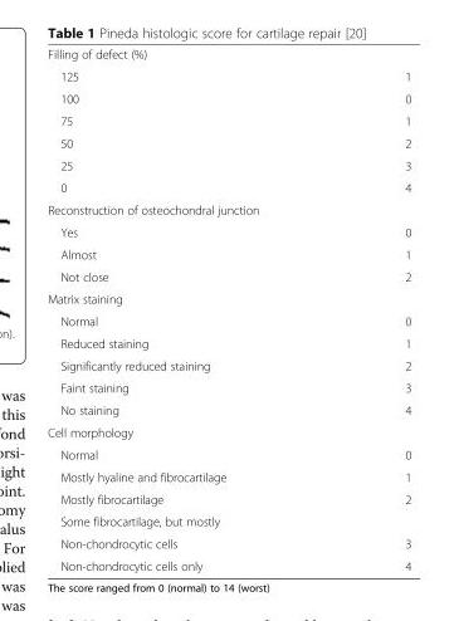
<table><tbody><tr><td colspan="2">Filling of defect (%)</td></tr><tr><td>125</td><td>1</td></tr><tr><td>100</td><td>0</td></tr><tr><td>75</td><td>1</td></tr><tr><td>50</td><td>2</td></tr><tr><td>25</td><td>3</td></tr><tr><td>0</td><td>4</td></tr><tr><td colspan="2">Reconstruction of osteochondral junction</td></tr><tr><td>Yes</td><td>0</td></tr><tr><td>Almost</td><td>1</td></tr><tr><td>Not close</td><td>2</td></tr><tr><td colspan="2">Matrix staining</td></tr><tr><td>Normal</td><td>0</td></tr><tr><td>Reduced staining</td><td>1</td></tr><tr><td>Significantly reduced staining</td><td>2</td></tr><tr><td>Faint staining</td><td>3</td></tr><tr><td>No staining</td><td>4</td></tr><tr><td colspan="2">Cell morphology</td></tr><tr><td>Normal</td><td>0</td></tr><tr><td>Mostly hyaline and fibrocartilage</td><td>1</td></tr><tr><td>Mostly fibrocartilage</td><td>2</td></tr><tr><td colspan="2">Some fibrocartilage, but mostly</td></tr><tr><td>Non-chondrocytic cells</td><td>3</td></tr><tr><td>Non-chondrocytic cells only</td><td>4</td></tr></tbody></table>